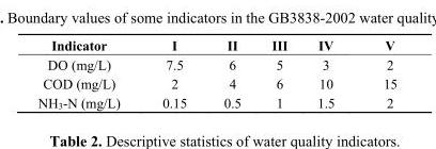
<table><thead><tr><td>Indicator</td><td>I</td><td>II</td><td>III</td><td>IV</td><td>V</td></tr></thead><tbody><tr><td>DO (mg/L)</td><td>7.5</td><td>6</td><td>5</td><td>3</td><td>2</td></tr><tr><td>COD (mg/L)</td><td>2</td><td>4</td><td>6</td><td>10</td><td>15</td></tr><tr><td>NH<sub>3</sub>-N (mg/L)</td><td>0.15</td><td>0.5</td><td>1</td><td>1.5</td><td>2</td></tr></tbody></table>